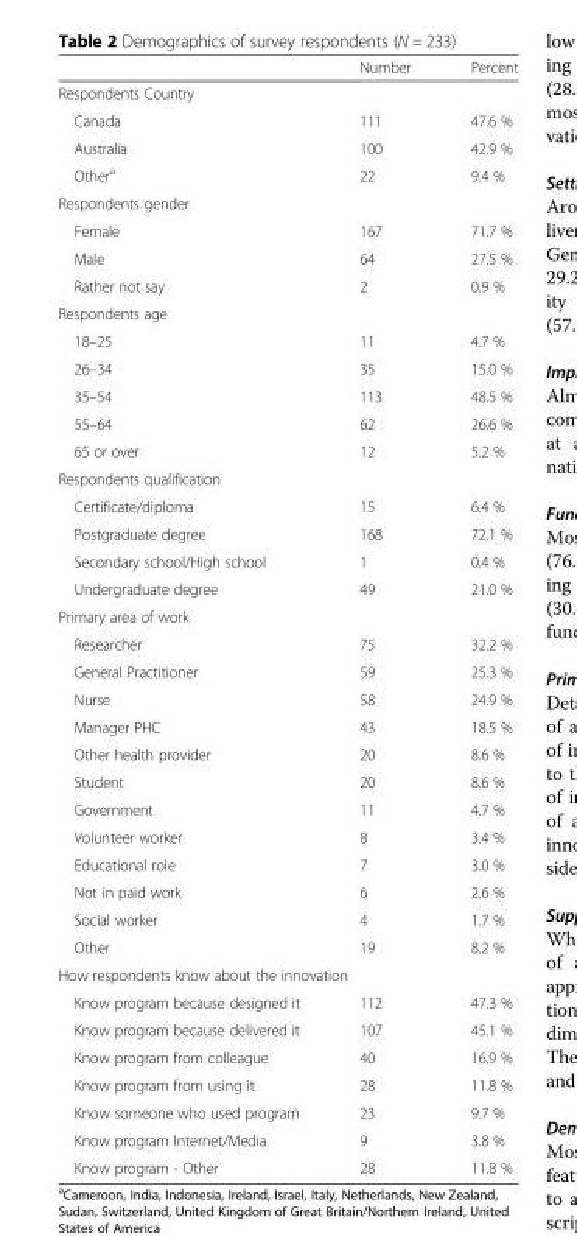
<table><thead><tr><td></td><td>Number</td><td>Percent</td></tr></thead><tbody><tr><td colspan="3">Respondents Country</td></tr><tr><td>Canada</td><td>111</td><td>47.6 %</td></tr><tr><td>Australia</td><td>100</td><td>42.9 %</td></tr><tr><td>Other<sup>a</sup></td><td>22</td><td>9.4 %</td></tr><tr><td colspan="3">Respondents gender</td></tr><tr><td>Female</td><td>167</td><td>71.7 %</td></tr><tr><td>Male</td><td>64</td><td>27.5 %</td></tr><tr><td>Rather not say</td><td>2</td><td>0.9 %</td></tr><tr><td colspan="3">Respondents age</td></tr><tr><td>18–25</td><td>11</td><td>4.7 %</td></tr><tr><td>26–34</td><td>35</td><td>15.0 %</td></tr><tr><td>35–54</td><td>113</td><td>48.5 %</td></tr><tr><td>55–64</td><td>62</td><td>26.6 %</td></tr><tr><td>65 or over</td><td>12</td><td>5.2 %</td></tr><tr><td colspan="3">Respondents qualification</td></tr><tr><td>Certificate/diploma</td><td>15</td><td>6.4 %</td></tr><tr><td>Postgraduate degree</td><td>168</td><td>72.1 %</td></tr><tr><td>Secondary school/High school</td><td>1</td><td>0.4 %</td></tr><tr><td>Undergraduate degree</td><td>49</td><td>21.0 %</td></tr><tr><td colspan="3">Primary area of work</td></tr><tr><td>Researcher</td><td>75</td><td>32.2 %</td></tr><tr><td>General Practitioner</td><td>59</td><td>25.3 %</td></tr><tr><td>Nurse</td><td>58</td><td>24.9 %</td></tr><tr><td>Manager PHC</td><td>43</td><td>18.5 %</td></tr><tr><td>Other health provider</td><td>20</td><td>8.6 %</td></tr><tr><td>Student</td><td>20</td><td>8.6 %</td></tr><tr><td>Government</td><td>11</td><td>4.7 %</td></tr><tr><td>Volunteer worker</td><td>8</td><td>3.4 %</td></tr><tr><td>Educational role</td><td>7</td><td>3.0 %</td></tr><tr><td>Not in paid work</td><td>6</td><td>2.6 %</td></tr><tr><td>Social worker</td><td>4</td><td>1.7 %</td></tr><tr><td>Other</td><td>19</td><td>8.2 %</td></tr><tr><td colspan="3">How respondents know about the innovation</td></tr><tr><td>Know program because designed it</td><td>112</td><td>47.3 %</td></tr><tr><td>Know program because delivered it</td><td>107</td><td>45.1 %</td></tr><tr><td>Know program from colleague</td><td>40</td><td>16.9 %</td></tr><tr><td>Know program from using it</td><td>28</td><td>11.8 %</td></tr><tr><td>Know someone who used program</td><td>23</td><td>9.7 %</td></tr><tr><td>Know program Internet/Media</td><td>9</td><td>3.8 %</td></tr><tr><td>Know program - Other</td><td>28</td><td>11.8 %</td></tr></tbody></table>